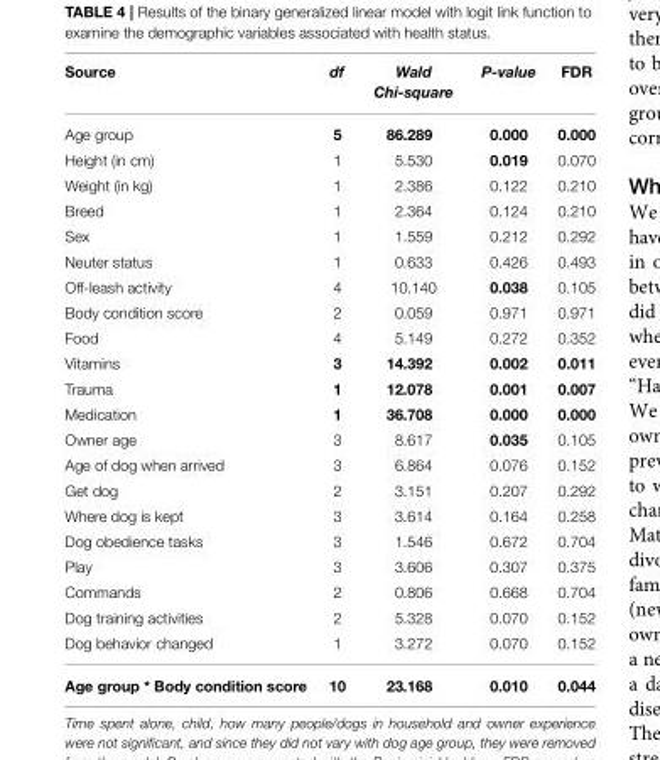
<table><thead><tr><td>Source</td><td>df</td><td>Wald Chi-square</td><td>P-value</td><td>FDR</td></tr></thead><tbody><tr><td>Age group</td><td>5</td><td>86.289</td><td>0.000</td><td>0.000</td></tr><tr><td>Height (in cm)</td><td>1</td><td>5.530</td><td>0.019</td><td>0.070</td></tr><tr><td>Weight (in kg)</td><td>1</td><td>2.386</td><td>0.122</td><td>0.210</td></tr><tr><td>Breed</td><td>1</td><td>2.364</td><td>0.124</td><td>0.210</td></tr><tr><td>Sex</td><td>1</td><td>1.559</td><td>0.212</td><td>0.292</td></tr><tr><td>Neuter status</td><td>1</td><td>0.633</td><td>0.426</td><td>0.493</td></tr><tr><td>Off-leash activity</td><td>4</td><td>10.140</td><td>0.038</td><td>0.105</td></tr><tr><td>Body condition score</td><td>2</td><td>0.059</td><td>0.971</td><td>0.971</td></tr><tr><td>Food</td><td>4</td><td>5.149</td><td>0.272</td><td>0.352</td></tr><tr><td>Vitamins</td><td>3</td><td>14.392</td><td>0.002</td><td>0.011</td></tr><tr><td>Trauma</td><td>1</td><td>12.078</td><td>0.001</td><td>0.007</td></tr><tr><td>Medication</td><td>1</td><td>36.708</td><td>0.000</td><td>0.000</td></tr><tr><td>Owner age</td><td>3</td><td>8.617</td><td>0.035</td><td>0.105</td></tr><tr><td>Age of dog when arrived</td><td>3</td><td>6.864</td><td>0.076</td><td>0.152</td></tr><tr><td>Get dog</td><td>2</td><td>3.151</td><td>0.207</td><td>0.292</td></tr><tr><td>Where dog is kept</td><td>3</td><td>3.614</td><td>0.164</td><td>0.258</td></tr><tr><td>Dog obedience tasks</td><td>3</td><td>1.546</td><td>0.672</td><td>0.704</td></tr><tr><td>Play</td><td>3</td><td>3.606</td><td>0.307</td><td>0.375</td></tr><tr><td>Commands</td><td>2</td><td>0.806</td><td>0.668</td><td>0.704</td></tr><tr><td>Dog training activities</td><td>2</td><td>5.328</td><td>0.070</td><td>0.152</td></tr><tr><td>Dog behavior changed</td><td>1</td><td>3.272</td><td>0.070</td><td>0.152</td></tr><tr><td>Age group * Body condition score</td><td>10</td><td>23.168</td><td>0.010</td><td>0.044</td></tr></tbody></table>